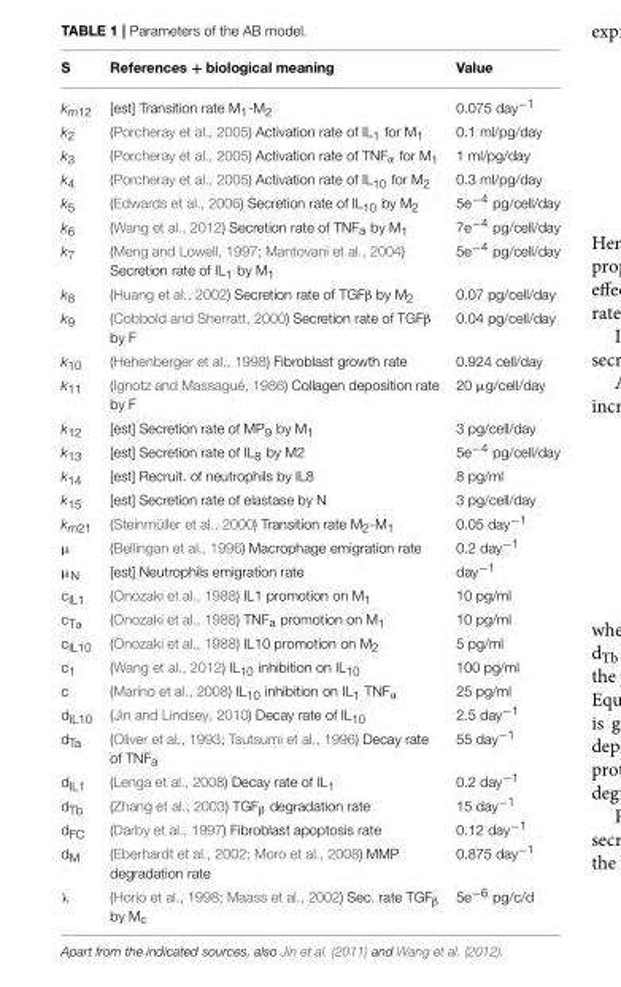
<table><thead><tr><td>S</td><td>References + biological meaning</td><td>Value</td></tr></thead><tbody><tr><td>km12</td><td>[est] Transition rate M<sub>1</sub>-M<sub>2</sub></td><td>0.075 day<sup>−1</sup></td></tr><tr><td>k<sub>2</sub></td><td>(Porcheray et al., 2005) Activation rate of IL<sub>1</sub> for M<sub>1</sub></td><td>0.1 ml/pg/day</td></tr><tr><td>k<sub>3</sub></td><td>(Porcheray et al., 2005) Activation rate of TNF<sub>α</sub> for M<sub>1</sub></td><td>1 ml/pg/day</td></tr><tr><td>k<sub>4</sub></td><td>(Porcheray et al., 2005) Activation rate of IL<sub>10</sub> for M<sub>2</sub></td><td>0.3 ml/pg/day</td></tr><tr><td>k<sub>5</sub></td><td>(Edwards et al., 2006) Secretion rate of IL<sub>10</sub> by M<sub>2</sub></td><td>5e<sup>−4</sup> pg/cell/day</td></tr><tr><td>k<sub>6</sub></td><td>(Wang et al., 2012) Secretion rate of TNF<sub>a</sub> by M<sub>1</sub></td><td>7e<sup>−4</sup> pg/cell/day</td></tr><tr><td>k<sub>7</sub></td><td>(Meng and Lowell, 1997; Mantovani et al., 2004) Secretion rate of IL<sub>1</sub> by M<sub>1</sub></td><td>5e<sup>−4</sup> pg/cell/day</td></tr><tr><td>k<sub>8</sub></td><td>(Huang et al., 2002) Secretion rate of TGFβ by M<sub>2</sub></td><td>0.07 pg/cell/day</td></tr><tr><td>k<sub>9</sub></td><td>(Cobbold and Sherratt, 2000) Secretion rate of TGFβ by F</td><td>0.04 pg/cell/day</td></tr><tr><td>k<sub>10</sub></td><td>(Hehenberger et al., 1998) Fibroblast growth rate</td><td>0.924 cell/day</td></tr><tr><td>k<sub>11</sub></td><td>(Ignotz and Massagué, 1986) Collagen deposition rate by F</td><td>20 µg/cell/day</td></tr><tr><td>k<sub>12</sub></td><td>[est] Secretion rate of MP<sub>9</sub> by M<sub>1</sub></td><td>3 pg/cell/day</td></tr><tr><td>k<sub>13</sub></td><td>[est] Secretion rate of IL<sub>8</sub> by M2</td><td>5e<sup>−4</sup> pg/cell/day</td></tr><tr><td>k<sub>14</sub></td><td>[est] Recruit. of neutrophils by IL8</td><td>8 pg/ml</td></tr><tr><td>k<sub>15</sub></td><td>[est] Secretion rate of elastase by N</td><td>3 pg/cell/day</td></tr><tr><td>km21</td><td>(Steinmüller et al., 2000) Transition rate M<sub>2</sub>-M<sub>1</sub></td><td>0.05 day<sup>−1</sup></td></tr><tr><td>µ</td><td>(Bellingan et al., 1996) Macrophage emigration rate</td><td>0.2 day<sup>−1</sup></td></tr><tr><td>µ<sub>N</sub></td><td>[est] Neutrophils emigration rate</td><td>day<sup>−1</sup></td></tr><tr><td>c<sub>IL1</sub></td><td>(Onozaki et al., 1988) IL1 promotion on M<sub>1</sub></td><td>10 pg/ml</td></tr><tr><td>c<sub>Tα</sub></td><td>(Onozaki et al., 1988) TNF<sub>a</sub> promotion on M<sub>1</sub></td><td>10 pg/ml</td></tr><tr><td>c<sub>IL10</sub></td><td>(Onozaki et al., 1988) IL10 promotion on M<sub>2</sub></td><td>5 pg/ml</td></tr><tr><td>c<sub>1</sub></td><td>(Wang et al., 2012) IL<sub>10</sub> inhibition on IL<sub>10</sub></td><td>100 pg/ml</td></tr><tr><td>c</td><td>(Marino et al., 2008) IL<sub>10</sub> inhibition on IL<sub>1</sub> TNF<sub>α</sub></td><td>25 pg/ml</td></tr><tr><td>d<sub>IL10</sub></td><td>(Jin and Lindsey, 2010) Decay rate of IL<sub>10</sub></td><td>2.5 day<sup>−1</sup></td></tr><tr><td>d<sub>Ta</sub></td><td>(Oliver et al., 1993; Tsutsumi et al., 1996) Decay rate of TNF<sub>a</sub></td><td>55 day<sup>−1</sup></td></tr><tr><td>d<sub>IL1</sub></td><td>(Lenga et al., 2008) Decay rate of IL<sub>1</sub></td><td>0.2 day<sup>−1</sup></td></tr><tr><td>d<sub>Tb</sub></td><td>(Zhang et al., 2003) TGF<sub>β</sub> degradation rate</td><td>15 day<sup>−1</sup></td></tr><tr><td>d<sub>FC</sub></td><td>(Darby et al., 1997) Fibroblast apoptosis rate</td><td>0.12 day<sup>−1</sup></td></tr><tr><td>d<sub>M</sub></td><td>(Eberhardt et al., 2002; Moro et al., 2008) MMP degradation rate</td><td>0.875 day<sup>−1</sup></td></tr><tr><td>λ</td><td>(Horio et al., 1998; Maass et al., 2002) Sec. rate TGF<sub>β</sub> by M<sub>c</sub></td><td>5e<sup>−6</sup> pg/c/d</td></tr></tbody></table>